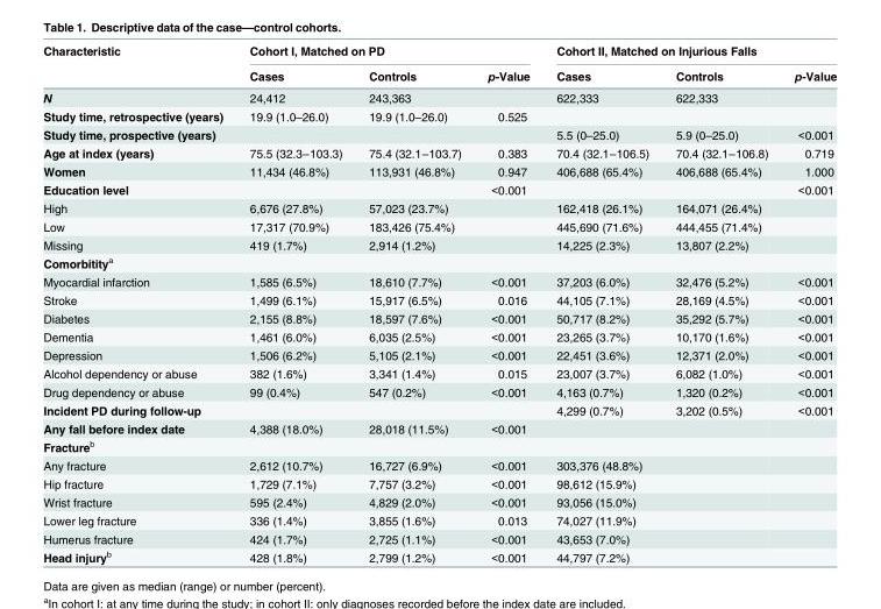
<table><thead><tr><td rowspan="2">Characteristic</td><td colspan="3">Cohort I, Matched on PD</td><td colspan="3">Cohort II, Matched on Injurious Falls</td></tr><tr><td>Cases</td><td>Controls</td><td>p-Value</td><td>Cases</td><td>Controls</td><td>p-Value</td></tr></thead><tbody><tr><td>N</td><td>24,412</td><td>243,363</td><td></td><td>622,333</td><td>622,333</td><td></td></tr><tr><td>Study time, retrospective (years)</td><td>19.9 (1.0–26.0)</td><td>19.9 (1.0–26.0)</td><td>0.525</td><td></td><td></td><td></td></tr><tr><td>Study time, prospective (years)</td><td></td><td></td><td></td><td>5.5 (0–25.0)</td><td>5.9 (0–25.0)</td><td>&lt;0.001</td></tr><tr><td>Age at index (years)</td><td>75.5 (32.3‒103.3)</td><td>75.4 (32.1‒103.7)</td><td>0.383</td><td>70.4 (32.1‒106.5)</td><td>70.4 (32.1‒106.8)</td><td>0.719</td></tr><tr><td>Women</td><td>11,434 (46.8%)</td><td>113,931 (46.8%)</td><td>0.947</td><td>406,688 (65.4%)</td><td>406,688 (65.4%)</td><td>1.000</td></tr><tr><td>Education level</td><td></td><td></td><td>&lt;0.001</td><td></td><td></td><td>&lt;0.001</td></tr><tr><td>High</td><td>6,676 (27.8%)</td><td>57,023 (23.7%)</td><td></td><td>162,418 (26.1%)</td><td>164,071 (26.4%)</td><td></td></tr><tr><td>Low</td><td>17,317 (70.9%)</td><td>183,426 (75.4%)</td><td></td><td>445,690 (71.6%)</td><td>444,455 (71.4%)</td><td></td></tr><tr><td>Missing</td><td>419 (1.7%)</td><td>2,914 (1.2%)</td><td></td><td>14,225 (2.3%)</td><td>13,807 (2.2%)</td><td></td></tr><tr><td colspan="7">Comorbitity<sup>a</sup></td></tr><tr><td>Myocardial infarction</td><td>1,585 (6.5%)</td><td>18,610 (7.7%)</td><td>&lt;0.001</td><td>37,203 (6.0%)</td><td>32,476 (5.2%)</td><td>&lt;0.001</td></tr><tr><td>Stroke</td><td>1,499 (6.1%)</td><td>15,917 (6.5%)</td><td>0.016</td><td>44,105 (7.1%)</td><td>28,169 (4.5%)</td><td>&lt;0.001</td></tr><tr><td>Diabetes</td><td>2,155 (8.8%)</td><td>18,597 (7.6%)</td><td>&lt;0.001</td><td>50,717 (8.2%)</td><td>35,292 (5.7%)</td><td>&lt;0.001</td></tr><tr><td>Dementia</td><td>1,461 (6.0%)</td><td>6,035 (2.5%)</td><td>&lt;0.001</td><td>23,265 (3.7%)</td><td>10,170 (1.6%)</td><td>&lt;0.001</td></tr><tr><td>Depression</td><td>1,506 (6.2%)</td><td>5,105 (2.1%)</td><td>&lt;0.001</td><td>22,451 (3.6%)</td><td>12,371 (2.0%)</td><td>&lt;0.001</td></tr><tr><td>Alcohol dependency or abuse</td><td>382 (1.6%)</td><td>3,341 (1.4%)</td><td>0.015</td><td>23,007 (3.7%)</td><td>6,082 (1.0%)</td><td>&lt;0.001</td></tr><tr><td>Drug dependency or abuse</td><td>99 (0.4%)</td><td>547 (0.2%)</td><td>&lt;0.001</td><td>4,163 (0.7%)</td><td>1,320 (0.2%)</td><td>&lt;0.001</td></tr><tr><td>Incident PD during follow-up</td><td></td><td></td><td></td><td>4,299 (0.7%)</td><td>3,202 (0.5%)</td><td>&lt;0.001</td></tr><tr><td>Any fall before index date</td><td>4,388 (18.0%)</td><td>28,018 (11.5%)</td><td>&lt;0.001</td><td></td><td></td><td></td></tr><tr><td colspan="7">Fracture<sup>b</sup></td></tr><tr><td>Any fracture</td><td>2,612 (10.7%)</td><td>16,727 (6.9%)</td><td>&lt;0.001</td><td>303,376 (48.8%)</td><td></td><td></td></tr><tr><td>Hip fracture</td><td>1,729 (7.1%)</td><td>7,757 (3.2%)</td><td>&lt;0.001</td><td>98,612 (15.9%)</td><td></td><td></td></tr><tr><td>Wrist fracture</td><td>595 (2.4%)</td><td>4,829 (2.0%)</td><td>&lt;0.001</td><td>93,056 (15.0%)</td><td></td><td></td></tr><tr><td>Lower leg fracture</td><td>336 (1.4%)</td><td>3,855 (1.6%)</td><td>0.013</td><td>74,027 (11.9%)</td><td></td><td></td></tr><tr><td>Humerus fracture</td><td>424 (1.7%)</td><td>2,725 (1.1%)</td><td>&lt;0.001</td><td>43,653 (7.0%)</td><td></td><td></td></tr><tr><td>Head injury<sup>b</sup></td><td>428 (1.8%)</td><td>2,799 (1.2%)</td><td>&lt;0.001</td><td>44,797 (7.2%)</td><td></td><td></td></tr></tbody></table>